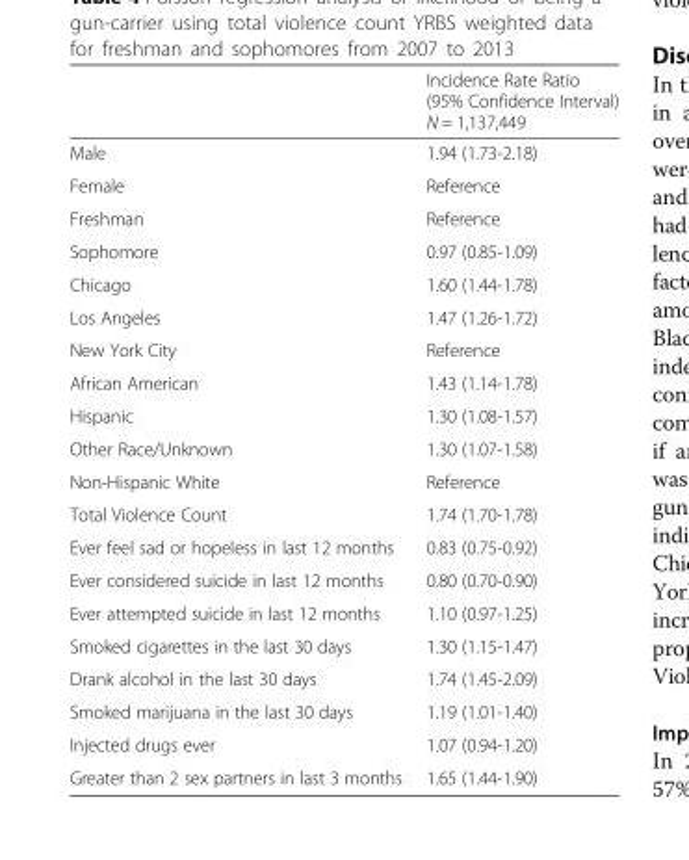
<table><thead><tr><td></td><td>Incidence Rate Ratio (95% Confidence Interval) N = 1,137,449</td></tr></thead><tbody><tr><td>Male</td><td>1.94 (1.73-2.18)</td></tr><tr><td>Female</td><td>Reference</td></tr><tr><td>Freshman</td><td>Reference</td></tr><tr><td>Sophomore</td><td>0.97 (0.85-1.09)</td></tr><tr><td>Chicago</td><td>1.60 (1.44-1.78)</td></tr><tr><td>Los Angeles</td><td>1.47 (1.26-1.72)</td></tr><tr><td>New York City</td><td>Reference</td></tr><tr><td>African American</td><td>1.43 (1.14-1.78)</td></tr><tr><td>Hispanic</td><td>1.30 (1.08-1.57)</td></tr><tr><td>Other Race/Unknown</td><td>1.30 (1.07-1.58)</td></tr><tr><td>Non-Hispanic White</td><td>Reference</td></tr><tr><td>Total Violence Count</td><td>1.74 (1.70-1.78)</td></tr><tr><td>Ever feel sad or hopeless in last 12 months</td><td>0.83 (0.75-0.92)</td></tr><tr><td>Ever considered suicide in last 12 months</td><td>0.80 (0.70-0.90)</td></tr><tr><td>Ever attempted suicide in last 12 months</td><td>1.10 (0.97-1.25)</td></tr><tr><td>Smoked cigarettes in the last 30 days</td><td>1.30 (1.15-1.47)</td></tr><tr><td>Drank alcohol in the last 30 days</td><td>1.74 (1.45-2.09)</td></tr><tr><td>Smoked marijuana in the last 30 days</td><td>1.19 (1.01-1.40)</td></tr><tr><td>Injected drugs ever</td><td>1.07 (0.94-1.20)</td></tr><tr><td>Greater than 2 sex partners in last 3 months</td><td>1.65 (1.44-1.90)</td></tr></tbody></table>